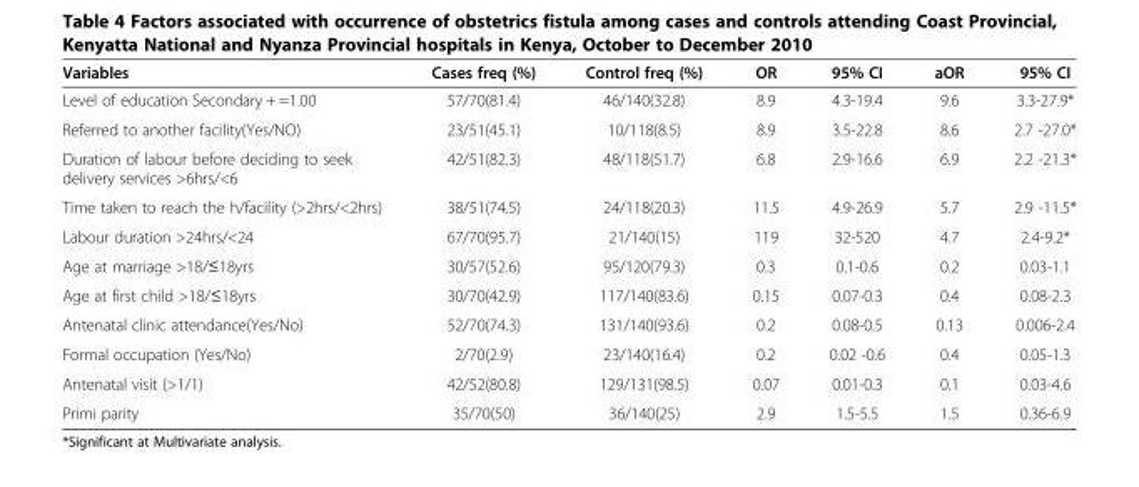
<table><thead><tr><td>Variables</td><td>Cases freq (%)</td><td>Control freq (%)</td><td>OR</td><td>95% CI</td><td>aOR</td><td>95% CI</td></tr></thead><tbody><tr><td>Level of education Secondary + =1.00</td><td>57/70(81.4)</td><td>46/140(32.8)</td><td>8.9</td><td>4.3-19.4</td><td>9.6</td><td>3.3-27.9*</td></tr><tr><td>Referred to another facility(Yes/NO)</td><td>23/51(45.1)</td><td>10/118(8.5)</td><td>8.9</td><td>3.5-22.8</td><td>8.6</td><td>2.7 -27.0*</td></tr><tr><td>Duration of labour before deciding to seek delivery services &gt;6hrs/&lt;6</td><td>42/51(82.3)</td><td>48/118(51.7)</td><td>6.8</td><td>2.9-16.6</td><td>6.9</td><td>2.2 -21.3*</td></tr><tr><td>Time taken to reach the h/facility (&gt;2hrs/&lt;2hrs)</td><td>38/51(74.5)</td><td>24/118(20.3)</td><td>11.5</td><td>4.9-26.9</td><td>5.7</td><td>2.9 -11.5*</td></tr><tr><td>Labour duration &gt;24hrs/&lt;24</td><td>67/70(95.7)</td><td>21/140(15)</td><td>119</td><td>32-520</td><td>4.7</td><td>2.4-9.2*</td></tr><tr><td>Age at marriage &gt;18/≤18yrs</td><td>30/57(52.6)</td><td>95/120(79.3)</td><td>0.3</td><td>0.1-0.6</td><td>0.2</td><td>0.03-1.1</td></tr><tr><td>Age at first child &gt;18/≤18yrs</td><td>30/70(42.9)</td><td>117/140(83.6)</td><td>0.15</td><td>0.07-0.3</td><td>0.4</td><td>0.08-2.3</td></tr><tr><td>Antenatal clinic attendance(Yes/No)</td><td>52/70(74.3)</td><td>131/140(93.6)</td><td>0.2</td><td>0.08-0.5</td><td>0.13</td><td>0.006-2.4</td></tr><tr><td>Formal occupation (Yes/No)</td><td>2/70(2.9)</td><td>23/140(16.4)</td><td>0.2</td><td>0.02 -0.6</td><td>0.4</td><td>0.05-1.3</td></tr><tr><td>Antenatal visit (&gt;1/1)</td><td>42/52(80.8)</td><td>129/131(98.5)</td><td>0.07</td><td>0.01-0.3</td><td>0.1</td><td>0.03-4.6</td></tr><tr><td>Primi parity</td><td>35/70(50)</td><td>36/140(25)</td><td>2.9</td><td>1.5-5.5</td><td>1.5</td><td>0.36-6.9</td></tr></tbody></table>